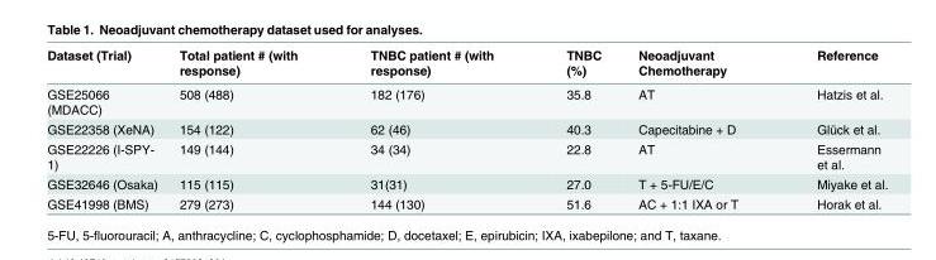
<table><thead><tr><td>Dataset (Trial)</td><td>Total patient # (with response)</td><td>TNBC patient # (with response)</td><td>TNBC (%)</td><td>Neoadjuvant Chemotherapy</td><td>Reference</td></tr></thead><tbody><tr><td>GSE25066 (MDACC)</td><td>508 (488)</td><td>182 (176)</td><td>35.8</td><td>AT</td><td>Hatzis et al.</td></tr><tr><td>GSE22358 (XeNA)</td><td>154 (122)</td><td>62 (46)</td><td>40.3</td><td>Capecitabine + D</td><td>Glück et al.</td></tr><tr><td>GSE22226 (I-SPY- 1)</td><td>149 (144)</td><td>34 (34)</td><td>22.8</td><td>AT</td><td>Essermann et al.</td></tr><tr><td>GSE32646 (Osaka)</td><td>115 (115)</td><td>31(31)</td><td>27.0</td><td>T + 5-FU/E/C</td><td>Miyake et al.</td></tr><tr><td>GSE41998 (BMS)</td><td>279 (273)</td><td>144 (130)</td><td>51.6</td><td>AC + 1:1 IXA or T</td><td>Horak et al.</td></tr></tbody></table>